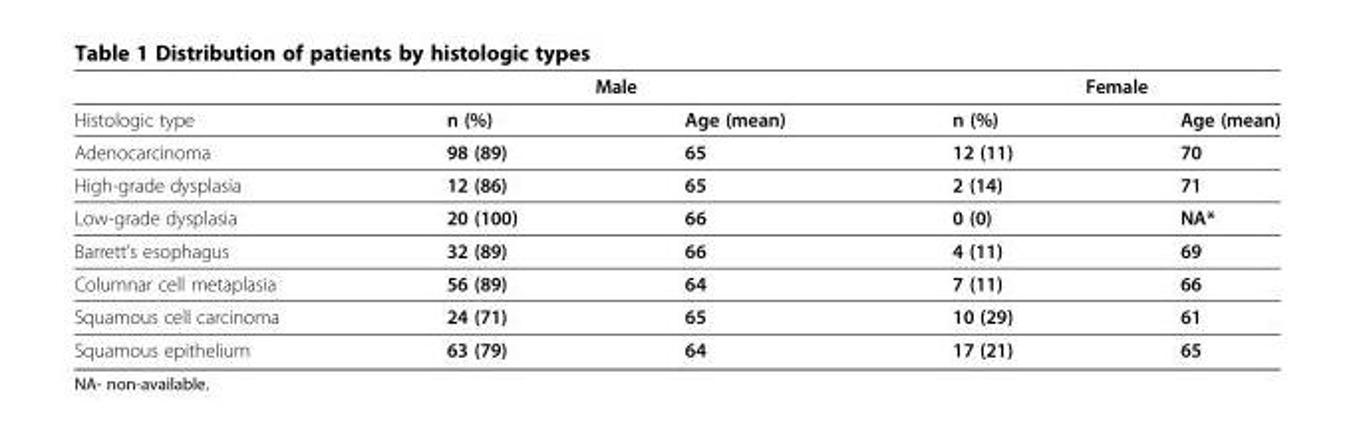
<table><thead><tr><td></td><td>Male</td><td></td><td>Female</td><td></td></tr></thead><tbody><tr><td>Histologic type</td><td>n (%)</td><td>Age (mean)</td><td>n (%)</td><td>Age (mean)</td></tr><tr><td>Adenocarcinoma</td><td>98 (89)</td><td>65</td><td>12 (11)</td><td>70</td></tr><tr><td>High-grade dysplasia</td><td>12 (86)</td><td>65</td><td>2 (14)</td><td>71</td></tr><tr><td>Low-grade dysplasia</td><td>20 (100)</td><td>66</td><td>0 (0)</td><td>NA*</td></tr><tr><td>Barrett’s esophagus</td><td>32 (89)</td><td>66</td><td>4 (11)</td><td>69</td></tr><tr><td>Columnar cell metaplasia</td><td>56 (89)</td><td>64</td><td>7 (11)</td><td>66</td></tr><tr><td>Squamous cell carcinoma</td><td>24 (71)</td><td>65</td><td>10 (29)</td><td>61</td></tr><tr><td>Squamous epithelium</td><td>63 (79)</td><td>64</td><td>17 (21)</td><td>65</td></tr></tbody></table>